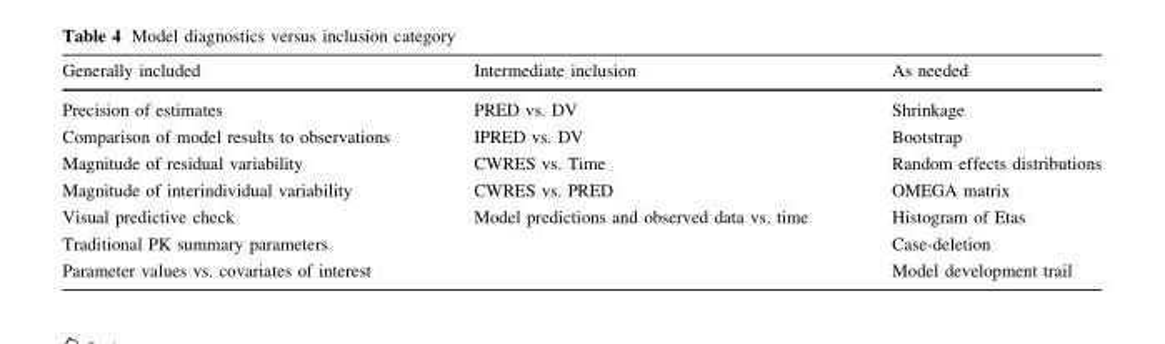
<table><thead><tr><td>Generally included</td><td>Intermediate inclusion</td><td>As needed</td></tr></thead><tbody><tr><td>Precision of estimates</td><td>PRED vs. DV</td><td>Shrinkage</td></tr><tr><td>Comparison of model results to observations</td><td>IPRED vs. DV</td><td>Bootstrap</td></tr><tr><td>Magnitude of residual variability</td><td>CWRES vs. Time</td><td>Random effects distributions</td></tr><tr><td>Magnitude of interindividual variability</td><td>CWRES vs. PRED</td><td>OMEGA matrix</td></tr><tr><td>Visual predictive check</td><td>Model predictions and observed data vs. time</td><td>Histogram of Etas</td></tr><tr><td>Traditional PK summary parameters</td><td></td><td>Case-deletion</td></tr><tr><td>Parameter values vs. covariates of interest</td><td></td><td>Model development trail</td></tr></tbody></table>